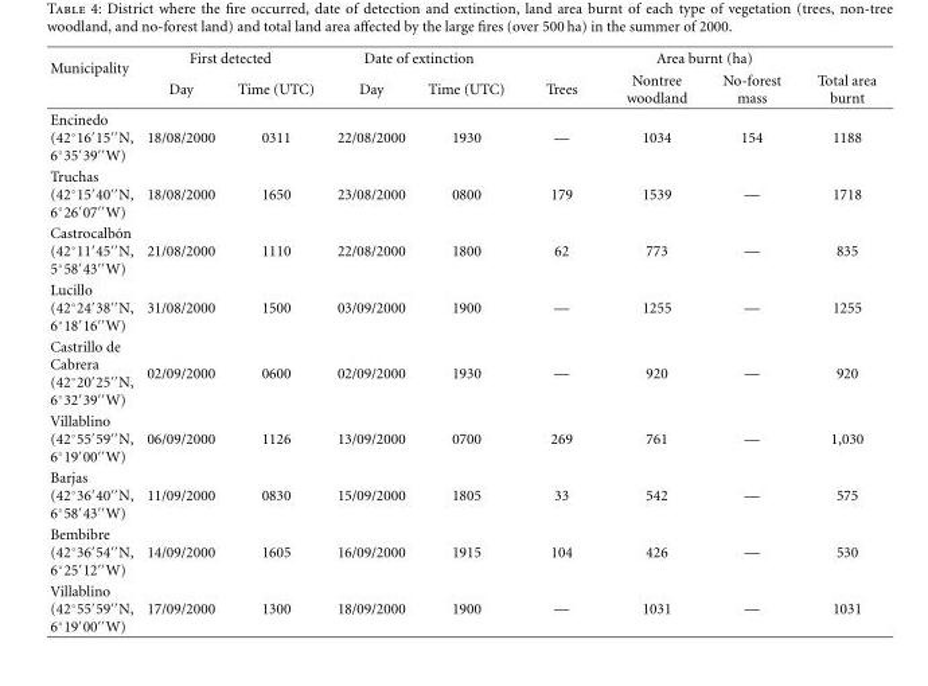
<table><thead><tr><td rowspan="2">Municipality</td><td colspan="2">First detected</td><td colspan="2">Date of extinction</td><td colspan="4">Area burnt (ha)</td></tr><tr><td>Day</td><td>Time (UTC)</td><td>Day</td><td>Time (UTC)</td><td>Trees</td><td>Nontree woodland</td><td>No-forest mass</td><td>Total area burnt</td></tr></thead><tbody><tr><td>Encinedo (42◦16′15′′N, 6◦35′39′′W)</td><td>18/08/2000</td><td>0311</td><td>22/08/2000</td><td>1930</td><td>—</td><td>1034</td><td>154</td><td>1188</td></tr><tr><td>Truchas (42◦15′40′′N, 6◦26′07′′W)</td><td>18/08/2000</td><td>1650</td><td>23/08/2000</td><td>0800</td><td>179</td><td>1539</td><td>—</td><td>1718</td></tr><tr><td>Castrocalb´on (42◦11′45′′N, 5◦58′43′′W)</td><td>21/08/2000</td><td>1110</td><td>22/08/2000</td><td>1800</td><td>62</td><td>773</td><td>—</td><td>835</td></tr><tr><td>Lucillo (42◦24′38′′N, 6◦18′16′′W)</td><td>31/08/2000</td><td>1500</td><td>03/09/2000</td><td>1900</td><td>—</td><td>1255</td><td>—</td><td>1255</td></tr><tr><td>Castrillo de Cabrera (42◦20′25′′N, 6◦32′39′′W)</td><td>02/09/2000</td><td>0600</td><td>02/09/2000</td><td>1930</td><td>—</td><td>920</td><td>—</td><td>920</td></tr><tr><td>Villablino (42◦55′59′′N, 6◦19′00′′W)</td><td>06/09/2000</td><td>1126</td><td>13/09/2000</td><td>0700</td><td>269</td><td>761</td><td>—</td><td>1,030</td></tr><tr><td>Barjas (42◦36′40′′N, 6◦58′43′′W)</td><td>11/09/2000</td><td>0830</td><td>15/09/2000</td><td>1805</td><td>33</td><td>542</td><td>—</td><td>575</td></tr><tr><td>Bembibre (42◦36′54′′N, 6◦25′12′′W)</td><td>14/09/2000</td><td>1605</td><td>16/09/2000</td><td>1915</td><td>104</td><td>426</td><td>—</td><td>530</td></tr><tr><td>Villablino (42◦55′59′′N, 6◦19′00′′W)</td><td>17/09/2000</td><td>1300</td><td>18/09/2000</td><td>1900</td><td>—</td><td>1031</td><td>—</td><td>1031</td></tr></tbody></table>